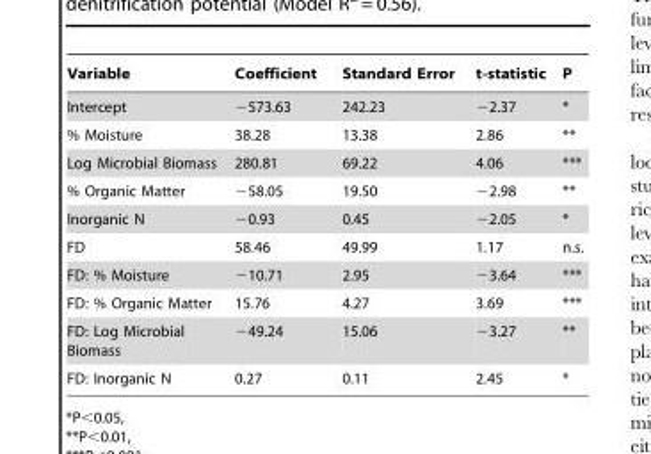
<table><thead><tr><td>Variable</td><td>Coefficient</td><td>Standard Error</td><td>t-statistic</td><td>P</td></tr></thead><tbody><tr><td>Intercept</td><td>−573.63</td><td>242.23</td><td>−2.37</td><td>*</td></tr><tr><td>% Moisture</td><td>38.28</td><td>13.38</td><td>2.86</td><td>**</td></tr><tr><td>Log Microbial Biomass</td><td>280.81</td><td>69.22</td><td>4.06</td><td>***</td></tr><tr><td>% Organic Matter</td><td>−58.05</td><td>19.50</td><td>−2.98</td><td>**</td></tr><tr><td>Inorganic N</td><td>−0.93</td><td>0.45</td><td>−2.05</td><td>*</td></tr><tr><td>FD</td><td>58.46</td><td>49.99</td><td>1.17</td><td>n.s.</td></tr><tr><td>FD: % Moisture</td><td>−10.71</td><td>2.95</td><td>−3.64</td><td>***</td></tr><tr><td>FD: % Organic Matter</td><td>15.76</td><td>4.27</td><td>3.69</td><td>***</td></tr><tr><td>FD: Log Microbial Biomass</td><td>−49.24</td><td>15.06</td><td>−3.27</td><td>**</td></tr><tr><td>FD: Inorganic N</td><td>0.27</td><td>0.11</td><td>2.45</td><td>*</td></tr></tbody></table>